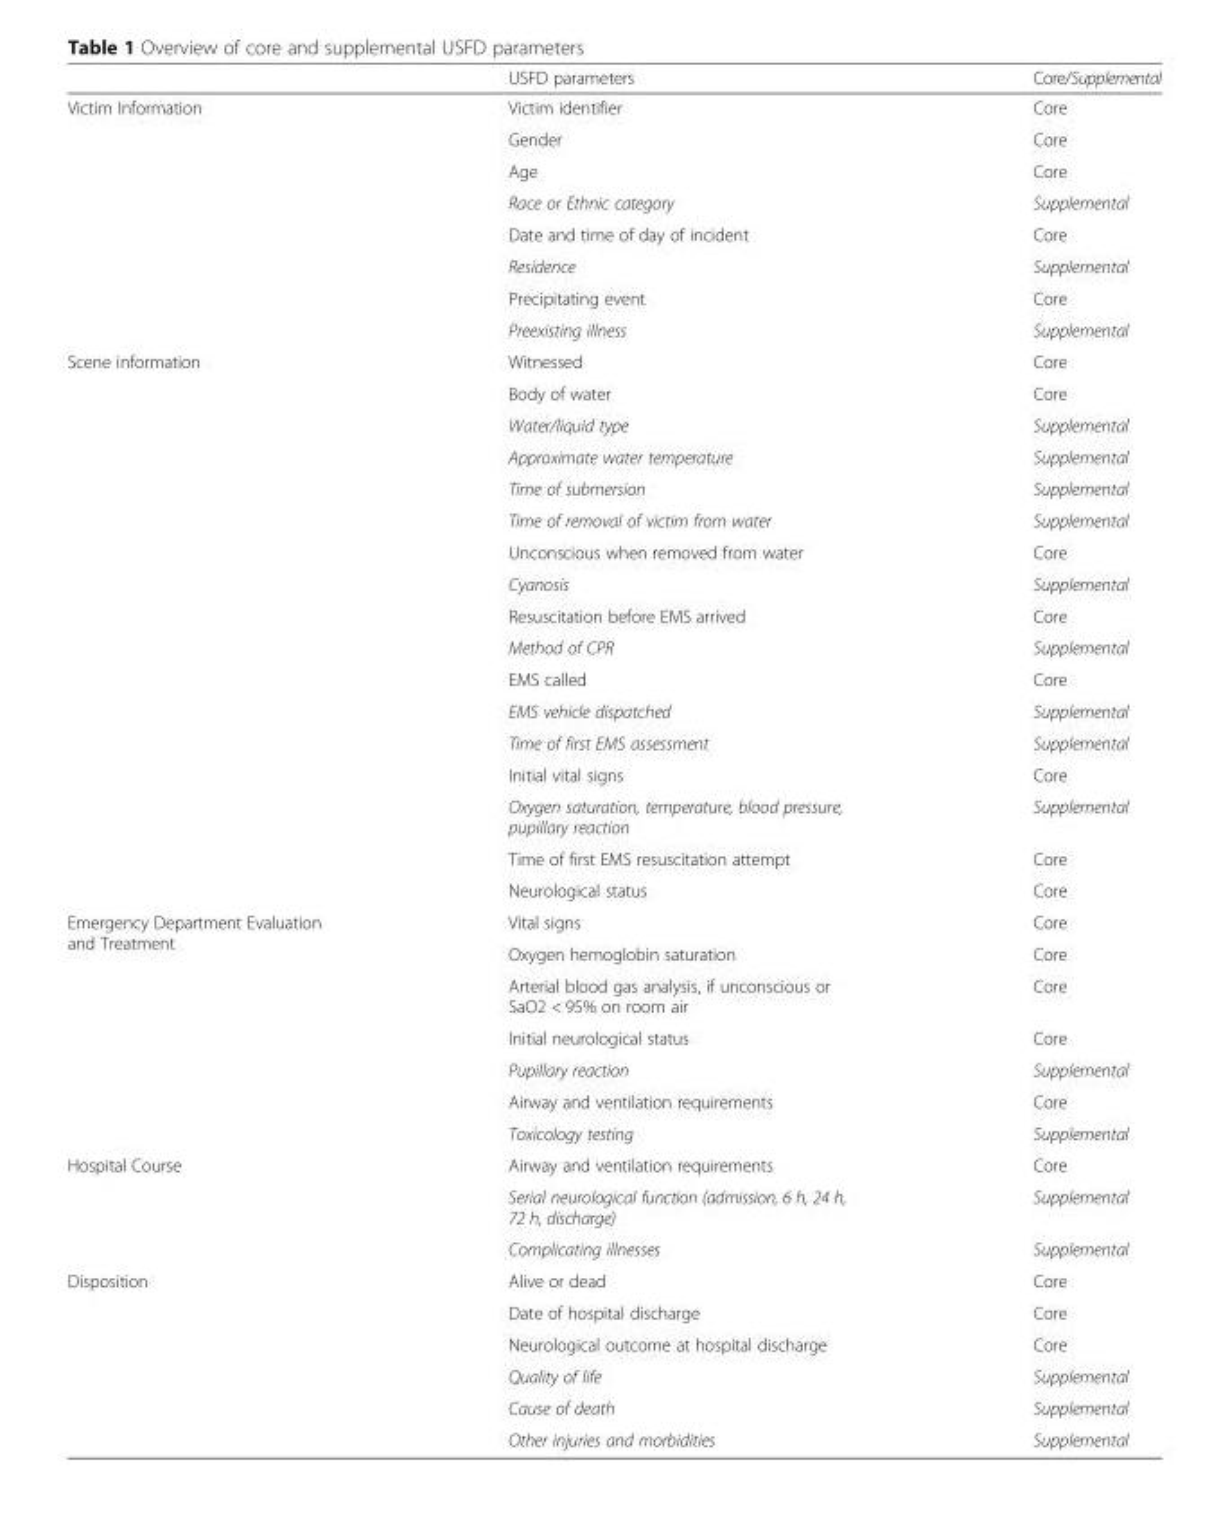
<table><thead><tr><td></td><td>USFD parameters</td><td>Core/Supplemental</td></tr></thead><tbody><tr><td rowspan="8">Victim Information</td><td>Victim identifier</td><td>Core</td></tr><tr><td>Gender</td><td>Core</td></tr><tr><td>Age</td><td>Core</td></tr><tr><td>Race or Ethnic category</td><td>Supplemental</td></tr><tr><td>Date and time of day of incident</td><td>Core</td></tr><tr><td>Residence</td><td>Supplemental</td></tr><tr><td>Precipitating event</td><td>Core</td></tr><tr><td>Preexisting illness</td><td>Supplemental</td></tr><tr><td rowspan="17">Scene information</td><td>Witnessed</td><td>Core</td></tr><tr><td>Body of water</td><td>Core</td></tr><tr><td>Water/liquid type</td><td>Supplemental</td></tr><tr><td>Approximate water temperature</td><td>Supplemental</td></tr><tr><td>Time of submersion</td><td>Supplemental</td></tr><tr><td>Time of removal of victim from water</td><td>Supplemental</td></tr><tr><td>Unconscious when removed from water</td><td>Core</td></tr><tr><td>Cyanosis</td><td>Supplemental</td></tr><tr><td>Resuscitation before EMS arrived</td><td>Core</td></tr><tr><td>Method of CPR</td><td>Supplemental</td></tr><tr><td>EMS called</td><td>Core</td></tr><tr><td>EMS vehicle dispatched</td><td>Supplemental</td></tr><tr><td>Time of first EMS assessment</td><td>Supplemental</td></tr><tr><td>Initial vital signs</td><td>Core</td></tr><tr><td>Oxygen saturation, temperature, blood pressure, pupillary reaction</td><td>Supplemental</td></tr><tr><td>Time of first EMS resuscitation attempt</td><td>Core</td></tr><tr><td>Neurological status</td><td>Core</td></tr><tr><td rowspan="7">Emergency Department Evaluation and Treatment</td><td>Vital signs</td><td>Core</td></tr><tr><td>Oxygen hemoglobin saturation</td><td>Core</td></tr><tr><td>Arterial blood gas analysis, if unconscious or SaO2 &lt; 95% on room air</td><td>Core</td></tr><tr><td>Initial neurological status</td><td>Core</td></tr><tr><td>Pupillary reaction</td><td>Supplemental</td></tr><tr><td>Airway and ventilation requirements</td><td>Core</td></tr><tr><td>Toxicology testing</td><td>Supplemental</td></tr><tr><td rowspan="3">Hospital Course</td><td>Airway and ventilation requirements</td><td>Core</td></tr><tr><td>Serial neurological function (admission, 6 h, 24 h, 72 h, discharge)</td><td>Supplemental</td></tr><tr><td>Complicating illnesses</td><td>Supplemental</td></tr><tr><td rowspan="6">Disposition</td><td>Alive or dead</td><td>Core</td></tr><tr><td>Date of hospital discharge</td><td>Core</td></tr><tr><td>Neurological outcome at hospital discharge</td><td>Core</td></tr><tr><td>Quality of life</td><td>Supplemental</td></tr><tr><td>Cause of death</td><td>Supplemental</td></tr><tr><td>Other injuries and morbidities</td><td>Supplemental</td></tr></tbody></table>